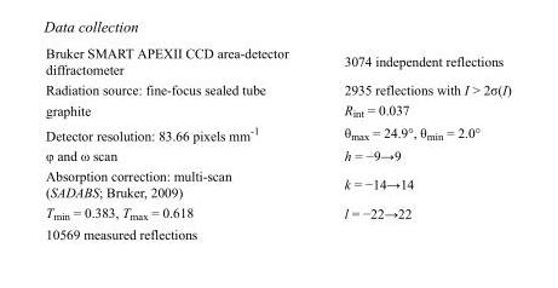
<table><tbody><tr><td>Bruker SMART APEXII CCD area-detector diffractometer</td><td>3074 independent reflections</td></tr><tr><td>Radiation source: fine-focus sealed tube</td><td>2935 reflections with I &gt; 2σ(I)</td></tr><tr><td>graphite</td><td>R<sub>int</sub> = 0.037</td></tr><tr><td>Detector resolution: 83.66 pixels mm<sup>-1</sup></td><td>θ<sub>max</sub> = 24.9°, θ<sub>min</sub> = 2.0°</td></tr><tr><td>φ and ω scan</td><td>h = −9→9</td></tr><tr><td>Absorption correction: multi-scan (SADABS; Bruker, 2009)</td><td>k = −14→14</td></tr><tr><td>T<sub>min</sub> = 0.383, T<sub>max</sub> = 0.618</td><td>l = −22→22</td></tr><tr><td>10569 measured reflections</td><td></td></tr></tbody></table>